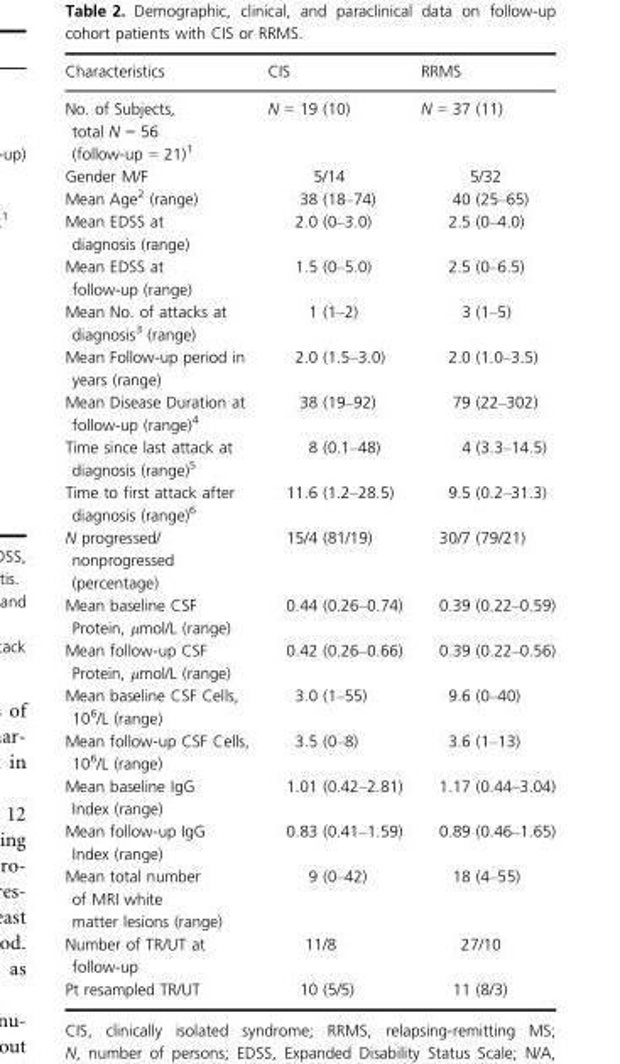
<table><thead><tr><td>Characteristics</td><td>CIS</td><td>RRMS</td></tr></thead><tbody><tr><td>No. of Subjects, total N = 56 (follow-up = 21)1</td><td>N = 19 (10)</td><td>N = 37 (11)</td></tr><tr><td>Gender M/F</td><td>5/14</td><td>5/32</td></tr><tr><td>Mean Age2 (range)</td><td>38 (18–74)</td><td>40 (25–65)</td></tr><tr><td>Mean EDSS at diagnosis (range)</td><td>2.0 (0–3.0)</td><td>2.5 (0–4.0)</td></tr><tr><td>Mean EDSS at follow-up (range)</td><td>1.5 (0–5.0)</td><td>2.5 (0–6.5)</td></tr><tr><td>Mean No. of attacks at diagnosis3 (range)</td><td>1 (1–2)</td><td>3 (1–5)</td></tr><tr><td>Mean Follow-up period in years (range)</td><td>2.0 (1.5–3.0)</td><td>2.0 (1.0–3.5)</td></tr><tr><td>Mean Disease Duration at follow-up (range)4</td><td>38 (19–92)</td><td>79 (22–302)</td></tr><tr><td>Time since last attack at diagnosis (range)5</td><td>8 (0.1–48)</td><td>4 (3.3–14.5)</td></tr><tr><td>Time to first attack after diagnosis (range)6</td><td>11.6 (1.2–28.5)</td><td>9.5 (0.2–31.3)</td></tr><tr><td>N progressed/ nonprogressed (percentage)</td><td>15/4 (81/19)</td><td>30/7 (79/21)</td></tr><tr><td>Mean baseline CSF Protein, μmol/L (range)</td><td>0.44 (0.26–0.74)</td><td>0.39 (0.22–0.59)</td></tr><tr><td>Mean follow-up CSF Protein, μmol/L (range)</td><td>0.42 (0.26–0.66)</td><td>0.39 (0.22–0.56)</td></tr><tr><td>Mean baseline CSF Cells, 10<sup>6</sup>/L (range)</td><td>3.0 (1–55)</td><td>9.6 (0–40)</td></tr><tr><td>Mean follow-up CSF Cells, 10<sup>6</sup>/L (range)</td><td>3.5 (0–8)</td><td>3.6 (1–13)</td></tr><tr><td>Mean baseline IgG Index (range)</td><td>1.01 (0.42–2.81)</td><td>1.17 (0.44–3.04)</td></tr><tr><td>Mean follow-up IgG Index (range)</td><td>0.83 (0.41–1.59)</td><td>0.89 (0.46–1.65)</td></tr><tr><td>Mean total number of MRI white matter lesions (range)</td><td>9 (0–42)</td><td>18 (4–55)</td></tr><tr><td>Number of TR/UT at follow-up</td><td>11/8</td><td>27/10</td></tr><tr><td>Pt resampled TR/UT</td><td>10 (5/5)</td><td>11 (8/3)</td></tr></tbody></table>